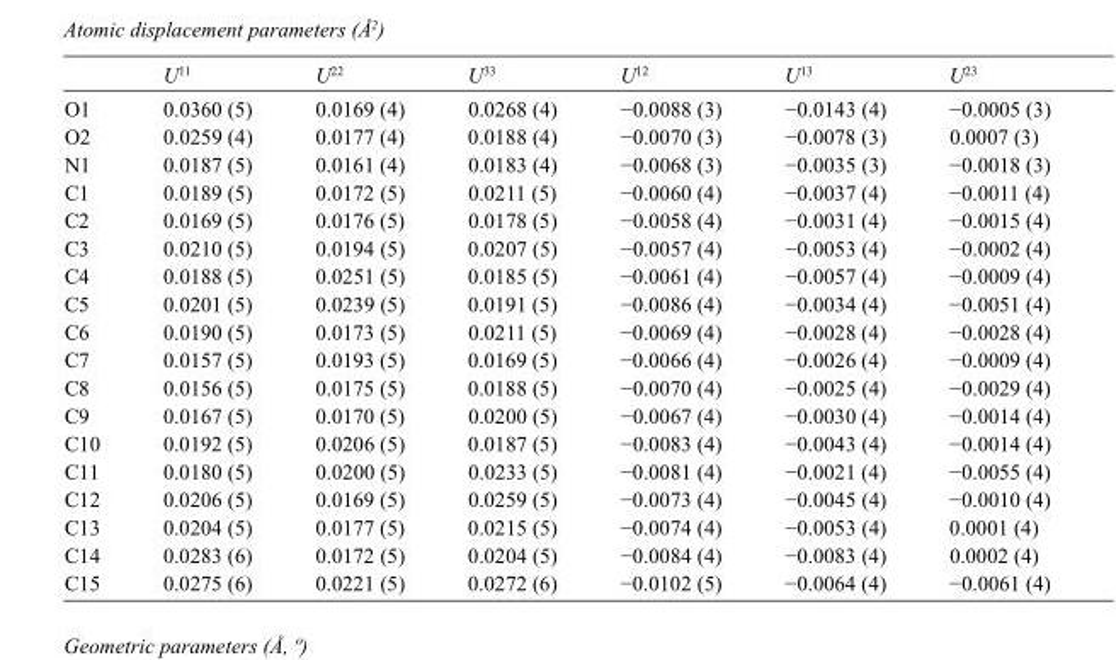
<table><thead><tr><td></td><td>U<sup>11</sup></td><td>U<sup>22</sup></td><td>U<sup>33</sup></td><td>U<sup>12</sup></td><td>U<sup>13</sup></td><td>U<sup>23</sup></td></tr></thead><tbody><tr><td>O1</td><td>0.0360 (5)</td><td>0.0169 (4)</td><td>0.0268 (4)</td><td>−0.0088 (3)</td><td>−0.0143 (4)</td><td>−0.0005 (3)</td></tr><tr><td>O2</td><td>0.0259 (4)</td><td>0.0177 (4)</td><td>0.0188 (4)</td><td>−0.0070 (3)</td><td>−0.0078 (3)</td><td>0.0007 (3)</td></tr><tr><td>N1</td><td>0.0187 (5)</td><td>0.0161 (4)</td><td>0.0183 (4)</td><td>−0.0068 (3)</td><td>−0.0035 (3)</td><td>−0.0018 (3)</td></tr><tr><td>C1</td><td>0.0189 (5)</td><td>0.0172 (5)</td><td>0.0211 (5)</td><td>−0.0060 (4)</td><td>−0.0037 (4)</td><td>−0.0011 (4)</td></tr><tr><td>C2</td><td>0.0169 (5)</td><td>0.0176 (5)</td><td>0.0178 (5)</td><td>−0.0058 (4)</td><td>−0.0031 (4)</td><td>−0.0015 (4)</td></tr><tr><td>C3</td><td>0.0210 (5)</td><td>0.0194 (5)</td><td>0.0207 (5)</td><td>−0.0057 (4)</td><td>−0.0053 (4)</td><td>−0.0002 (4)</td></tr><tr><td>C4</td><td>0.0188 (5)</td><td>0.0251 (5)</td><td>0.0185 (5)</td><td>−0.0061 (4)</td><td>−0.0057 (4)</td><td>−0.0009 (4)</td></tr><tr><td>C5</td><td>0.0201 (5)</td><td>0.0239 (5)</td><td>0.0191 (5)</td><td>−0.0086 (4)</td><td>−0.0034 (4)</td><td>−0.0051 (4)</td></tr><tr><td>C6</td><td>0.0190 (5)</td><td>0.0173 (5)</td><td>0.0211 (5)</td><td>−0.0069 (4)</td><td>−0.0028 (4)</td><td>−0.0028 (4)</td></tr><tr><td>C7</td><td>0.0157 (5)</td><td>0.0193 (5)</td><td>0.0169 (5)</td><td>−0.0066 (4)</td><td>−0.0026 (4)</td><td>−0.0009 (4)</td></tr><tr><td>C8</td><td>0.0156 (5)</td><td>0.0175 (5)</td><td>0.0188 (5)</td><td>−0.0070 (4)</td><td>−0.0025 (4)</td><td>−0.0029 (4)</td></tr><tr><td>C9</td><td>0.0167 (5)</td><td>0.0170 (5)</td><td>0.0200 (5)</td><td>−0.0067 (4)</td><td>−0.0030 (4)</td><td>−0.0014 (4)</td></tr><tr><td>C10</td><td>0.0192 (5)</td><td>0.0206 (5)</td><td>0.0187 (5)</td><td>−0.0083 (4)</td><td>−0.0043 (4)</td><td>−0.0014 (4)</td></tr><tr><td>C11</td><td>0.0180 (5)</td><td>0.0200 (5)</td><td>0.0233 (5)</td><td>−0.0081 (4)</td><td>−0.0021 (4)</td><td>−0.0055 (4)</td></tr><tr><td>C12</td><td>0.0206 (5)</td><td>0.0169 (5)</td><td>0.0259 (5)</td><td>−0.0073 (4)</td><td>−0.0045 (4)</td><td>−0.0010 (4)</td></tr><tr><td>C13</td><td>0.0204 (5)</td><td>0.0177 (5)</td><td>0.0215 (5)</td><td>−0.0074 (4)</td><td>−0.0053 (4)</td><td>0.0001 (4)</td></tr><tr><td>C14</td><td>0.0283 (6)</td><td>0.0172 (5)</td><td>0.0204 (5)</td><td>−0.0084 (4)</td><td>−0.0083 (4)</td><td>0.0002 (4)</td></tr><tr><td>C15</td><td>0.0275 (6)</td><td>0.0221 (5)</td><td>0.0272 (6)</td><td>−0.0102 (5)</td><td>−0.0064 (4)</td><td>−0.0061 (4)</td></tr></tbody></table>